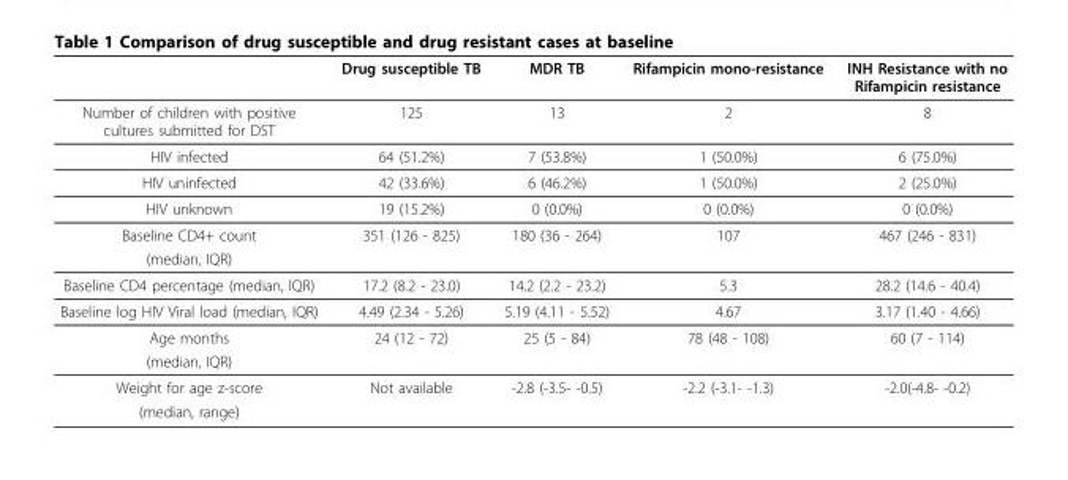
<table><thead><tr><td></td><td>Drug susceptible TB</td><td>MDR TB</td><td>Rifampicin mono-resistance</td><td>INH Resistance with no Rifampicin resistance</td></tr></thead><tbody><tr><td>Number of children with positive cultures submitted for DST</td><td>125</td><td>13</td><td>2</td><td>8</td></tr><tr><td>HIV infected</td><td>64 (51.2%)</td><td>7 (53.8%)</td><td>1 (50.0%)</td><td>6 (75.0%)</td></tr><tr><td>HIV uninfected</td><td>42 (33.6%)</td><td>6 (46.2%)</td><td>1 (50.0%)</td><td>2 (25.0%)</td></tr><tr><td>HIV unknown</td><td>19 (15.2%)</td><td>0 (0.0%)</td><td>0 (0.0%)</td><td>0 (0.0%)</td></tr><tr><td>Baseline CD4+ count</td><td>351 (126 - 825)</td><td>180 (36 - 264)</td><td>107</td><td>467 (246 - 831)</td></tr><tr><td colspan="5">(median, IQR)</td></tr><tr><td>Baseline CD4 percentage (median, IQR)</td><td>17.2 (8.2 - 23.0)</td><td>14.2 (2.2 - 23.2)</td><td>5.3</td><td>28.2 (14.6 - 40.4)</td></tr><tr><td>Baseline log HIV Viral load (median, IQR)</td><td>4.49 (2.34 - 5.26)</td><td>5.19 (4.11 - 5.52)</td><td>4.67</td><td>3.17 (1.40 - 4.66)</td></tr><tr><td>Age months</td><td>24 (12 - 72)</td><td>25 (5 - 84)</td><td>78 (48 - 108)</td><td>60 (7 - 114)</td></tr><tr><td colspan="5">(median, IQR)</td></tr><tr><td>Weight for age z-score</td><td>Not available</td><td>-2.8 (-3.5- -0.5)</td><td>-2.2 (-3.1- -1.3)</td><td>-2.0(-4.8- -0.2)</td></tr><tr><td>(median, range)</td><td></td><td></td><td></td><td></td></tr></tbody></table>